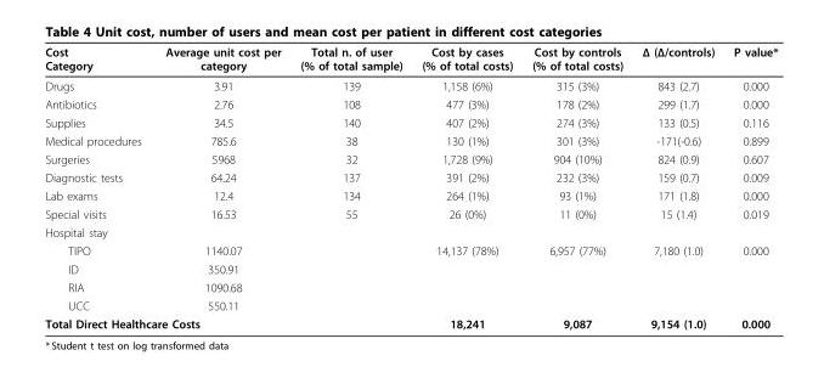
<table><thead><tr><td>Cost Category</td><td>Average unit cost per category</td><td>Total n. of user (% of total sample)</td><td>Cost by cases (% of total costs)</td><td>Cost by controls (% of total costs)</td><td>Δ (Δ/controls)</td><td>P value*</td></tr></thead><tbody><tr><td>Drugs</td><td>3.91</td><td>139</td><td>1,158 (6%)</td><td>315 (3%)</td><td>843 (2.7)</td><td>0.000</td></tr><tr><td>Antibiotics</td><td>2.76</td><td>108</td><td>477 (3%)</td><td>178 (2%)</td><td>299 (1.7)</td><td>0.000</td></tr><tr><td>Supplies</td><td>34.5</td><td>140</td><td>407 (2%)</td><td>274 (3%)</td><td>133 (0.5)</td><td>0.116</td></tr><tr><td>Medical procedures</td><td>785.6</td><td>38</td><td>130 (1%)</td><td>301 (3%)</td><td>-171(-0.6)</td><td>0.899</td></tr><tr><td>Surgeries</td><td>5968</td><td>32</td><td>1,728 (9%)</td><td>904 (10%)</td><td>824 (0.9)</td><td>0.607</td></tr><tr><td>Diagnostic tests</td><td>64.24</td><td>137</td><td>391 (2%)</td><td>232 (3%)</td><td>159 (0.7)</td><td>0.009</td></tr><tr><td>Lab exams</td><td>12.4</td><td>134</td><td>264 (1%)</td><td>93 (1%)</td><td>171 (1.8)</td><td>0.000</td></tr><tr><td>Special visits</td><td>16.53</td><td>55</td><td>26 (0%)</td><td>11 (0%)</td><td>15 (1.4)</td><td>0.019</td></tr><tr><td colspan="7">Hospital stay</td></tr><tr><td>TIPO</td><td>1140.07</td><td></td><td>14,137 (78%)</td><td>6,957 (77%)</td><td>7,180 (1.0)</td><td>0.000</td></tr><tr><td>ID</td><td>350.91</td><td></td><td></td><td></td><td></td><td></td></tr><tr><td>RIA</td><td>1090.68</td><td></td><td></td><td></td><td></td><td></td></tr><tr><td>UCC</td><td>550.11</td><td></td><td></td><td></td><td></td><td></td></tr><tr><td colspan="3">Total Direct Healthcare Costs</td><td>18,241</td><td>9,087</td><td>9,154 (1.0)</td><td>0.000</td></tr></tbody></table>